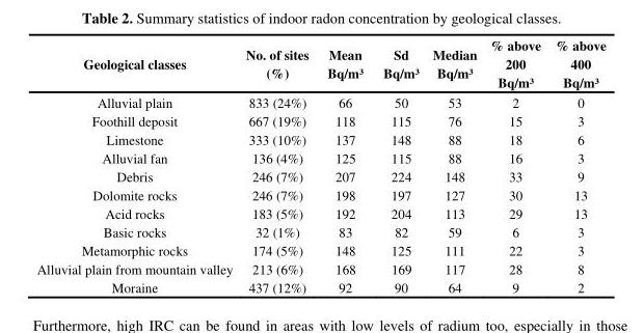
<table><thead><tr><td>Geological classes</td><td>No. of sites (%)</td><td>Mean Bq/m³</td><td>Sd Bq/m³</td><td>Median Bq/m³</td><td>% above 200 Bq/m³</td><td>% above 400 Bq/m³</td></tr></thead><tbody><tr><td>Alluvial plain</td><td>833 (24%)</td><td>66</td><td>50</td><td>53</td><td>2</td><td>0</td></tr><tr><td>Foothill deposit</td><td>667 (19%)</td><td>118</td><td>115</td><td>76</td><td>15</td><td>3</td></tr><tr><td>Limestone</td><td>333 (10%)</td><td>137</td><td>148</td><td>88</td><td>18</td><td>6</td></tr><tr><td>Alluvial fan</td><td>136 (4%)</td><td>125</td><td>115</td><td>88</td><td>16</td><td>3</td></tr><tr><td>Debris</td><td>246 (7%)</td><td>207</td><td>224</td><td>148</td><td>33</td><td>9</td></tr><tr><td>Dolomite rocks</td><td>246 (7%)</td><td>198</td><td>197</td><td>127</td><td>30</td><td>13</td></tr><tr><td>Acid rocks</td><td>183 (5%)</td><td>192</td><td>204</td><td>113</td><td>29</td><td>13</td></tr><tr><td>Basic rocks</td><td>32 (1%)</td><td>83</td><td>82</td><td>59</td><td>6</td><td>3</td></tr><tr><td>Metamorphic rocks</td><td>174 (5%)</td><td>148</td><td>125</td><td>111</td><td>22</td><td>3</td></tr><tr><td>Alluvial plain from mountain valley</td><td>213 (6%)</td><td>168</td><td>169</td><td>117</td><td>28</td><td>8</td></tr><tr><td>Moraine</td><td>437 (12%)</td><td>92</td><td>90</td><td>64</td><td>9</td><td>2</td></tr></tbody></table>